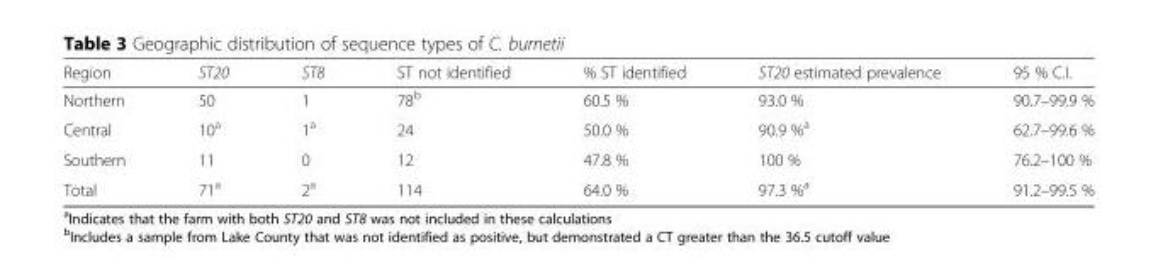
<table><thead><tr><td>Region</td><td>ST20</td><td>ST8</td><td>ST not identified</td><td>% ST identified</td><td>ST20 estimated prevalence</td><td>95 % C.I.</td></tr></thead><tbody><tr><td>Northern</td><td>50</td><td>1</td><td>78<sup>b</sup></td><td>60.5 %</td><td>93.0 %</td><td>90.7–99.9 %</td></tr><tr><td>Central</td><td>10<sup>a</sup></td><td>1<sup>a</sup></td><td>24</td><td>50.0 %</td><td>90.9 %<sup>a</sup></td><td>62.7–99.6 %</td></tr><tr><td>Southern</td><td>11</td><td>0</td><td>12</td><td>47.8 %</td><td>100 %</td><td>76.2–100 %</td></tr><tr><td>Total</td><td>71<sup>a</sup></td><td>2<sup>a</sup></td><td>114</td><td>64.0 %</td><td>97.3 %<sup>a</sup></td><td>91.2–99.5 %</td></tr></tbody></table>